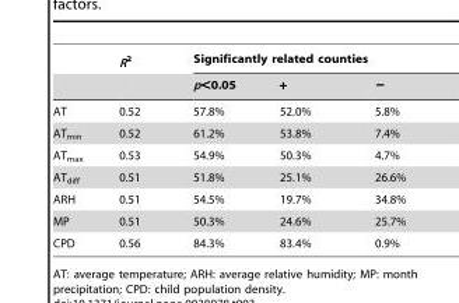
<table><thead><tr><td rowspan="2"></td><td rowspan="2">R<sup>2</sup></td><td colspan="3">Significantly related counties</td></tr><tr><td>p&lt;0.05</td><td>+</td><td>−</td></tr></thead><tbody><tr><td>AT</td><td>0.52</td><td>57.8%</td><td>52.0%</td><td>5.8%</td></tr><tr><td>AT<sub>min</sub></td><td>0.52</td><td>61.2%</td><td>53.8%</td><td>7.4%</td></tr><tr><td>AT<sub>max</sub></td><td>0.53</td><td>54.9%</td><td>50.3%</td><td>4.7%</td></tr><tr><td>AT<sub>diff</sub></td><td>0.51</td><td>51.8%</td><td>25.1%</td><td>26.6%</td></tr><tr><td>ARH</td><td>0.51</td><td>54.5%</td><td>19.7%</td><td>34.8%</td></tr><tr><td>MP</td><td>0.51</td><td>50.3%</td><td>24.6%</td><td>25.7%</td></tr><tr><td>CPD</td><td>0.56</td><td>84.3%</td><td>83.4%</td><td>0.9%</td></tr></tbody></table>